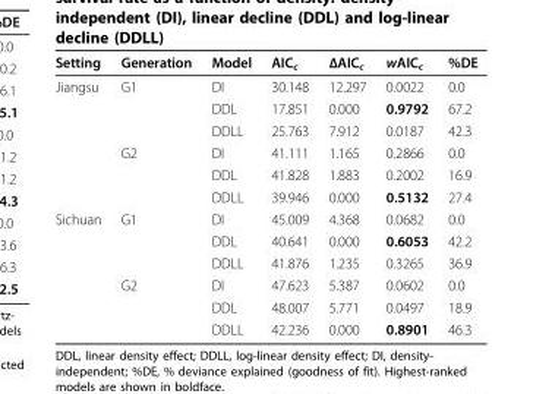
<table><thead><tr><td>Setting</td><td>Generation</td><td>Model</td><td>AIC<sub>c</sub></td><td>ΔAIC<sub>c</sub></td><td>wAIC<sub>c</sub></td><td>%DE</td></tr></thead><tbody><tr><td rowspan="6">Jiangsu</td><td>G1</td><td>DI</td><td>30.148</td><td>12.297</td><td>0.0022</td><td>0.0</td></tr><tr><td></td><td>DDL</td><td>17.851</td><td>0.000</td><td>0.9792</td><td>67.2</td></tr><tr><td></td><td>DDLL</td><td>25.763</td><td>7.912</td><td>0.0187</td><td>42.3</td></tr><tr><td>G2</td><td>DI</td><td>41.111</td><td>1.165</td><td>0.2866</td><td>0.0</td></tr><tr><td></td><td>DDL</td><td>41.828</td><td>1.883</td><td>0.2002</td><td>16.9</td></tr><tr><td></td><td>DDLL</td><td>39.946</td><td>0.000</td><td>0.5132</td><td>27.4</td></tr><tr><td rowspan="6">Sichuan</td><td>G1</td><td>DI</td><td>45.009</td><td>4.368</td><td>0.0682</td><td>0.0</td></tr><tr><td></td><td>DDL</td><td>40.641</td><td>0.000</td><td>0.6053</td><td>42.2</td></tr><tr><td></td><td>DDLL</td><td>41.876</td><td>1.235</td><td>0.3265</td><td>36.9</td></tr><tr><td>G2</td><td>DI</td><td>47.623</td><td>5.387</td><td>0.0602</td><td>0.0</td></tr><tr><td></td><td>DDL</td><td>48.007</td><td>5.771</td><td>0.0497</td><td>18.9</td></tr><tr><td></td><td>DDLL</td><td>42.236</td><td>0.000</td><td>0.8901</td><td>46.3</td></tr></tbody></table>